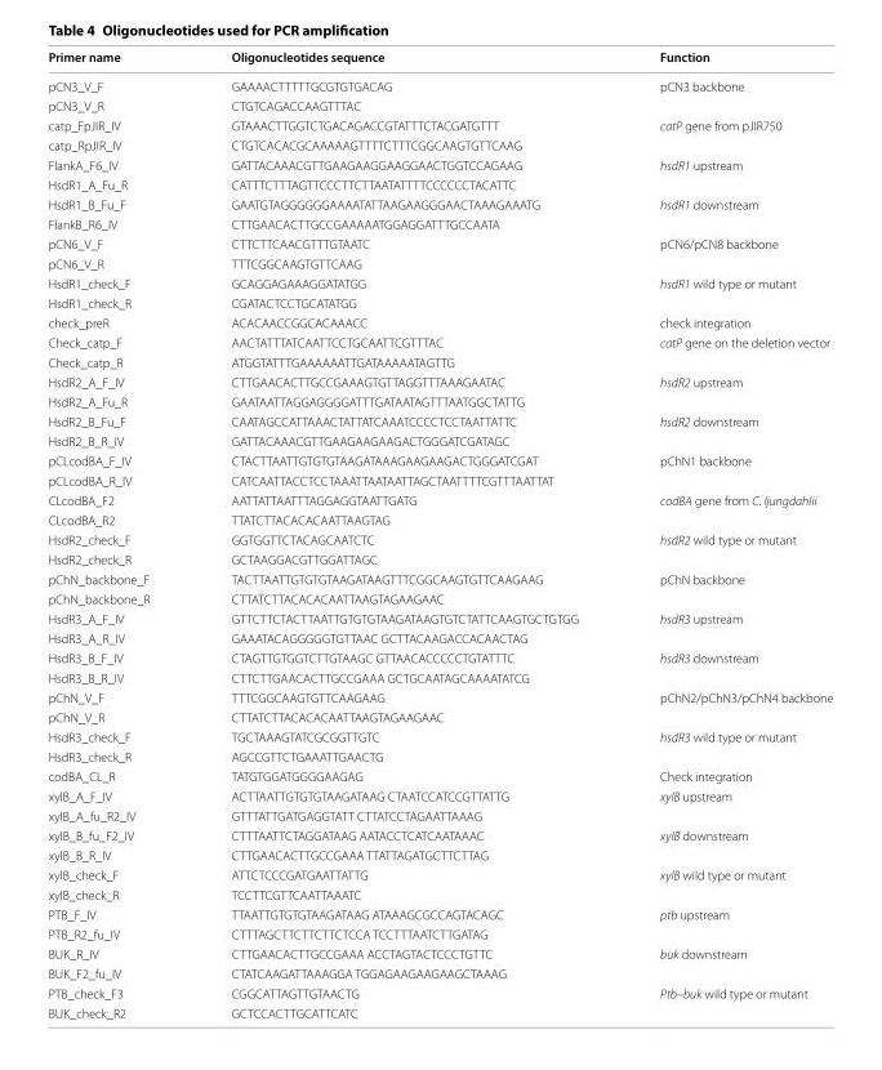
<table><thead><tr><td>Primer name</td><td>Oligonucleotides sequence</td><td>Function</td></tr></thead><tbody><tr><td>pCN3_V_F</td><td>GAA AAC TTT TTG CGT GTG ACAG</td><td rowspan="2">pCN3 backbone</td></tr><tr><td>pCN3_V_R</td><td>CTG TCA GAC CAA GTT TAC</td></tr><tr><td>catp_FpJIR_IV</td><td>GTA AAC TTG GTC TGA CAG ACC GTA TTT CTA CGA TGT TT</td><td rowspan="2">catP gene from pJIR750</td></tr><tr><td>catp_RpJIR_IV</td><td>CTG TCA CAC GCA AAA AGT TTT CTT TCG GCA AGT GTT CAAG</td></tr><tr><td>FlankA_F6_IV</td><td>GAT TAC AAA CGT TGA AGA AGG AAG GAA CTG GTC CAG AAG</td><td rowspan="2">hsdR1 upstream</td></tr><tr><td>HsdR1_A_Fu_R</td><td>CAT TTC TTT AGT TCC CTT CTT AAT ATT TTC CCC CCT ACA TTC</td></tr><tr><td>HsdR1_B_Fu_F</td><td>GAA TGT AGG GGG GAA AAT ATT AAG AAG GGA ACT AAA GAA ATG</td><td rowspan="2">hsdR1 downstream</td></tr><tr><td>FlankB_R6_IV</td><td>CTT GAA CAC TTG CCG AAA AAT GGA GGA TTT GCC AAT A</td></tr><tr><td>pCN6_V_F</td><td>CTT CTT CAA CGT TTG TAA TC</td><td rowspan="2">pCN6/pCN8 backbone</td></tr><tr><td>pCN6_V_R</td><td>TTT CGG CAA GTG TTC AAG</td></tr><tr><td>HsdR1_check_F</td><td>GCA GGA GAA AGG ATA TGG</td><td rowspan="2">hsdR1 wild type or mutant</td></tr><tr><td>HsdR1_check_R</td><td>CGA TAC TCC TGC ATA TGG</td></tr><tr><td>check_preR</td><td>ACA CAA CCG GCA CAA ACC</td><td>check integration</td></tr><tr><td>Check_catp_F</td><td>AAC TAT TTA TCA ATT CCT GCA ATT CGT TTA C</td><td rowspan="2">catP gene on the deletion vector</td></tr><tr><td>Check_catp_R</td><td>ATG GTA TTT GAA AAA ATT GAT AAA AAT AGT TG</td></tr><tr><td>HsdR2_A_F_IV</td><td>CTT GAA CAC TTG CCG AAA GTG TTA GGT TTA AAG AAT AC</td><td rowspan="2">hsdR2 upstream</td></tr><tr><td>HsdR2_A_Fu_R</td><td>GAA TAA TTA GGA GGG GAT TTG ATA ATA GTT TAA TGG CTA TTG</td></tr><tr><td>HsdR2_B_Fu_F</td><td>CAA TAG CCA TTA AAC TAT TAT CAA ATC CCC TCC TAA TTA TTC</td><td rowspan="2">hsdR2 downstream</td></tr><tr><td>HsdR2_B_R_IV</td><td>GAT TAC AAA CGT TGA AGA AGA AGA CTG GGA TCG ATA GC</td></tr><tr><td>pCLcodBA_F_IV</td><td>CTA CTT AAT TGT GTG TAA GAT AAA GAA GAA GAC TGG GAT CGA T</td><td rowspan="2">pChN1 backbone</td></tr><tr><td>pCLcodBA_R_IV</td><td>CAT CAA TTA CCT CCT AAA TTA ATA ATT AGC TAA TTT TCG TTT AAT TAT</td></tr><tr><td>CLcodBA_F2</td><td>AAT TAT TAA TTT AGG AGG TAA TTG ATG</td><td rowspan="2">codBA gene from C. ljungdahlii</td></tr><tr><td>CLcodBA_R2</td><td>TTA TCT TAC ACA CAA TTA AGTAG</td></tr><tr><td>HsdR2_check_F</td><td>GGT GGT TCT ACA GCA ATC TC</td><td rowspan="2">hsdR2 wild type or mutant</td></tr><tr><td>HsdR2_check_R</td><td>GCT AAG GAC GTT GGA TTA GC</td></tr><tr><td>pChN_backbone_F</td><td>TAC TTA ATT GTG TGT AAG ATA AGT TTC GGC AAG TGT TCA AGA AG</td><td rowspan="2">pChN backbone</td></tr><tr><td>pChN_backbone_R</td><td>CTT ATC TTA CAC ACA ATT AAG TAG AAG AAC</td></tr><tr><td>HsdR3_A_F_IV</td><td>GTT CTT CTA CTT AAT TGT GTG TAA GAT AAG TGT CTA TTC AAG TGC TGT GG</td><td rowspan="2">hsdR3 upstream</td></tr><tr><td>HsdR3_A_R_IV</td><td>GAA ATA CAG GGG GTG TTA AC GCT TAC AAG ACC ACA ACT AG</td></tr><tr><td>HsdR3_B_F_IV</td><td>CTA GTT GTG GTC TTG TAA GC GTT AAC ACC CCC TGT ATT TC</td><td rowspan="2">hsdR3 downstream</td></tr><tr><td>HsdR3_B_R_IV</td><td>CTT CTT GAA CAC TTG CCG AAA GCT GCA ATA GCA AAA TAT CG</td></tr><tr><td>pChN_V_F</td><td>TTT CGG CAA GTG TTC AAG AAG</td><td rowspan="2">pChN2/pChN3/pChN4 backbone</td></tr><tr><td>pChN_V_R</td><td>CTT ATC TTA CAC ACA ATT AAG TAG AAG AAC</td></tr><tr><td>HsdR3_check_F</td><td>TGC TAA AGT ATC GCG GTT GTC</td><td rowspan="2">hsdR3 wild type or mutant</td></tr><tr><td>HsdR3_check_R</td><td>AGC CGT TCT GAA ATT GAA CTG</td></tr><tr><td>codBA_CL_R</td><td>TAT GTG GAT GGG GAA GAG</td><td>Check integration</td></tr><tr><td>xylB_A_F_IV</td><td>ACT TAA TTG TGT GTA AGA TAAG CTA ATC CAT CCG TTA TTG</td><td rowspan="2">xylB upstream</td></tr><tr><td>xylB_A_fu_R2_IV</td><td>GTT TAT TGA TGA GGT ATT CTT ATC CTA GAA TTA AAG</td></tr><tr><td>xylB_B_fu_F2_IV</td><td>CTT TAA TTC TAG GAT AAG AAT ACC TCA TCA ATA AAC</td><td rowspan="2">xylB downstream</td></tr><tr><td>xylB_B_R_IV</td><td>CTT GAA CAC TTG CCG AAA TTA TTA GAT GCT TCT TAG</td></tr><tr><td>xylB_check_F</td><td>ATT CTC CCG ATG AAT TAT TG</td><td rowspan="2">xylB wild type or mutant</td></tr><tr><td>xylB_check_R</td><td>TCC TTC GTT CAA TTA AAT C</td></tr><tr><td>PTB_F_IV</td><td>TTA ATT GTG TGT AAG ATA AG ATA AAG CGC CAG TAC AGC</td><td rowspan="2">ptb upstream</td></tr><tr><td>PTB_R2_fu_IV</td><td>CTT TAG CTT CTT CTT CTC CA TCC TTT AAT CTT GATAG</td></tr><tr><td>BUK_R_IV</td><td>CTT GAA CAC TTG CCG AAA ACC TAG TAC TCC CTG TTC</td><td rowspan="2">buk downstream</td></tr><tr><td>BUK_F2_fu_IV</td><td>CTA TCA AGA TTA AAGGA TGG AGA AGA AGA AGC TAA AG</td></tr><tr><td>PTB_check_F3</td><td>CGG CAT TAG TTG TAA CTG</td><td rowspan="2">Ptb–buk wild type or mutant</td></tr><tr><td>BUK_check_R2</td><td>GCT CCA CTT GCA TTC ATC</td></tr></tbody></table>